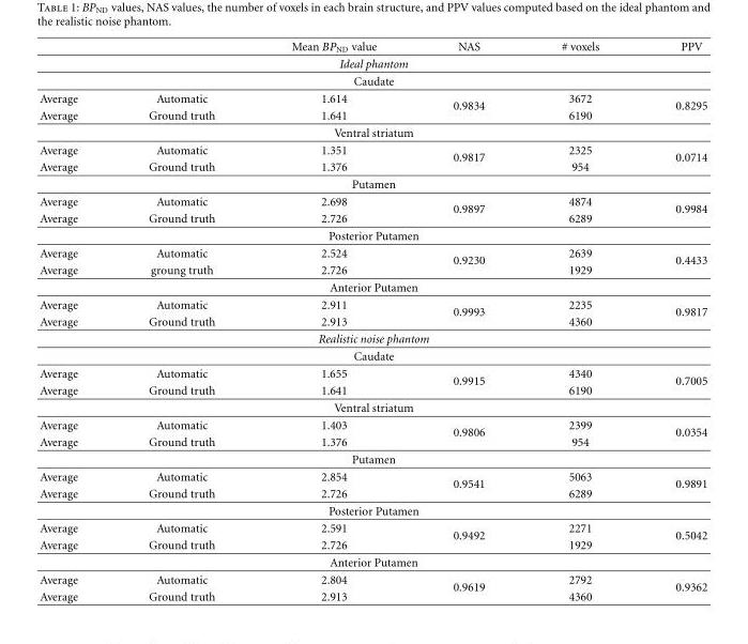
<table><thead><tr><td></td><td></td><td>Mean BP<sub>ND</sub> value</td><td>NAS</td><td># voxels</td><td>PPV</td></tr></thead><tbody><tr><td colspan="6">Ideal phantom</td></tr><tr><td colspan="6">Caudate</td></tr><tr><td>Average</td><td>Automatic</td><td>1.614</td><td rowspan="2">0.9834</td><td>3672</td><td rowspan="2">0.8295</td></tr><tr><td>Average</td><td>Ground truth</td><td>1.641</td><td>6190</td></tr><tr><td colspan="6">Ventral striatum</td></tr><tr><td>Average</td><td>Automatic</td><td>1.351</td><td rowspan="2">0.9817</td><td>2325</td><td rowspan="2">0.0714</td></tr><tr><td>Average</td><td>Ground truth</td><td>1.376</td><td>954</td></tr><tr><td colspan="6">Putamen</td></tr><tr><td>Average</td><td>Automatic</td><td>2.698</td><td rowspan="2">0.9897</td><td>4874</td><td rowspan="2">0.9984</td></tr><tr><td>Average</td><td>Ground truth</td><td>2.726</td><td>6289</td></tr><tr><td colspan="6">Posterior Putamen</td></tr><tr><td>Average</td><td>Automatic</td><td>2.524</td><td rowspan="2">0.9230</td><td>2639</td><td rowspan="2">0.4433</td></tr><tr><td>Average</td><td>groung truth</td><td>2.726</td><td>1929</td></tr><tr><td colspan="6">Anterior Putamen</td></tr><tr><td>Average</td><td>Automatic</td><td>2.911</td><td rowspan="2">0.9993</td><td>2235</td><td rowspan="2">0.9817</td></tr><tr><td>Average</td><td>Ground truth</td><td>2.913</td><td>4360</td></tr><tr><td colspan="6">Realistic noise phantom</td></tr><tr><td colspan="6">Caudate</td></tr><tr><td>Average</td><td>Automatic</td><td>1.655</td><td rowspan="2">0.9915</td><td>4340</td><td rowspan="2">0.7005</td></tr><tr><td>Average</td><td>Ground truth</td><td>1.641</td><td>6190</td></tr><tr><td colspan="6">Ventral striatum</td></tr><tr><td>Average</td><td>Automatic</td><td>1.403</td><td rowspan="2">0.9806</td><td>2399</td><td rowspan="2">0.0354</td></tr><tr><td>Average</td><td>Ground truth</td><td>1.376</td><td>954</td></tr><tr><td colspan="6">Putamen</td></tr><tr><td>Average</td><td>Automatic</td><td>2.854</td><td rowspan="2">0.9541</td><td>5063</td><td rowspan="2">0.9891</td></tr><tr><td>Average</td><td>Ground truth</td><td>2.726</td><td>6289</td></tr><tr><td colspan="6">Posterior Putamen</td></tr><tr><td>Average</td><td>Automatic</td><td>2.591</td><td rowspan="2">0.9492</td><td>2271</td><td rowspan="2">0.5042</td></tr><tr><td>Average</td><td>Ground truth</td><td>2.726</td><td>1929</td></tr><tr><td colspan="6">Anterior Putamen</td></tr><tr><td>Average</td><td>Automatic</td><td>2.804</td><td rowspan="2">0.9619</td><td>2792</td><td rowspan="2">0.9362</td></tr><tr><td>Average</td><td>Ground truth</td><td>2.913</td><td>4360</td></tr></tbody></table>